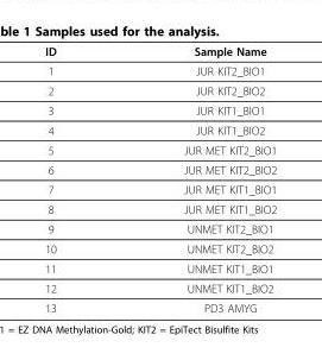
<table><thead><tr><td>ID</td><td>Sample Name</td></tr></thead><tbody><tr><td>1</td><td>JUR KIT2_BIO1</td></tr><tr><td>2</td><td>JUR KIT2_BIO2</td></tr><tr><td>3</td><td>JUR KIT1_BIO1</td></tr><tr><td>4</td><td>JUR KIT1_BIO2</td></tr><tr><td>5</td><td>JUR MET KIT2_BIO1</td></tr><tr><td>6</td><td>JUR MET KIT2_BIO2</td></tr><tr><td>7</td><td>JUR MET KIT1_BIO1</td></tr><tr><td>8</td><td>JUR MET KIT1_BIO2</td></tr><tr><td>9</td><td>UNMET KIT2_BIO1</td></tr><tr><td>10</td><td>UNMET KIT2_BIO2</td></tr><tr><td>11</td><td>UNMET KIT1_BIO1</td></tr><tr><td>12</td><td>UNMET KIT1_BIO2</td></tr><tr><td>13</td><td>PD3 AMYG</td></tr></tbody></table>